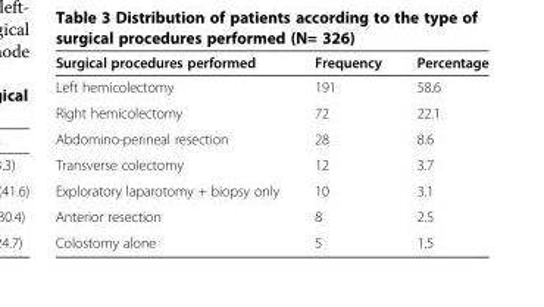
<table><thead><tr><td>Surgical procedures performed</td><td>Frequency</td><td>Percentage</td></tr></thead><tbody><tr><td>Left hemicolectomy</td><td>191</td><td>58.6</td></tr><tr><td>Right hemicolectomy</td><td>72</td><td>22.1</td></tr><tr><td>Abdomino-perineal resection</td><td>28</td><td>8.6</td></tr><tr><td>Transverse colectomy</td><td>12</td><td>3.7</td></tr><tr><td>Exploratory laparotomy + biopsy only</td><td>10</td><td>3.1</td></tr><tr><td>Anterior resection</td><td>8</td><td>2.5</td></tr><tr><td>Colostomy alone</td><td>5</td><td>1.5</td></tr></tbody></table>